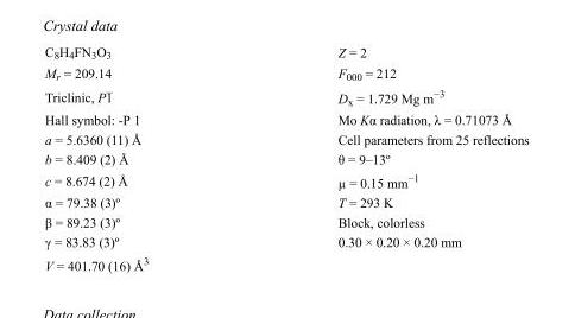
<table><tbody><tr><td>C<sub>8</sub>H<sub>4</sub>FN<sub>3</sub>O<sub>3</sub></td><td>Z = 2</td></tr><tr><td>M<sub>r</sub> = 209.14</td><td>F000 = 212</td></tr><tr><td>Triclinic, P1</td><td>D<sub>x</sub> = 1.729 Mg m<sup>−3</sup></td></tr><tr><td>Hall symbol: -P 1</td><td>Mo Kα radiation, λ = 0.71073 Å</td></tr><tr><td>a = 5.6360 (11) Å</td><td>Cell parameters from 25 reflections</td></tr><tr><td>b = 8.409 (2) Å</td><td>θ = 9–13º</td></tr><tr><td>c = 8.674 (2) Å</td><td>µ = 0.15 mm<sup>−1</sup></td></tr><tr><td>α = 79.38 (3)º</td><td>T = 293 K</td></tr><tr><td>β = 89.23 (3)º</td><td>Block, colorless</td></tr><tr><td>γ = 83.83 (3)º</td><td>0.30 × 0.20 × 0.20 mm</td></tr><tr><td>V = 401.70 (16) Å<sup>3</sup></td><td></td></tr></tbody></table>